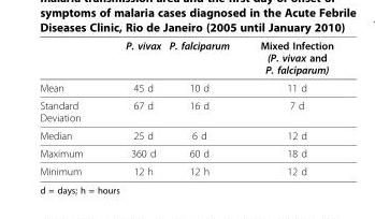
<table><thead><tr><td></td><td>P. vivax</td><td>P. falciparum</td><td>Mixed Infection (P. vivax and P. falciparum)</td></tr></thead><tbody><tr><td>Mean</td><td>45 d</td><td>10 d</td><td>11 d</td></tr><tr><td>Standard Deviation</td><td>67 d</td><td>16 d</td><td>7 d</td></tr><tr><td>Median</td><td>25 d</td><td>6 d</td><td>12 d</td></tr><tr><td>Maximum</td><td>360 d</td><td>60 d</td><td>18 d</td></tr><tr><td>Minimum</td><td>12 h</td><td>12 h</td><td>12 d</td></tr></tbody></table>